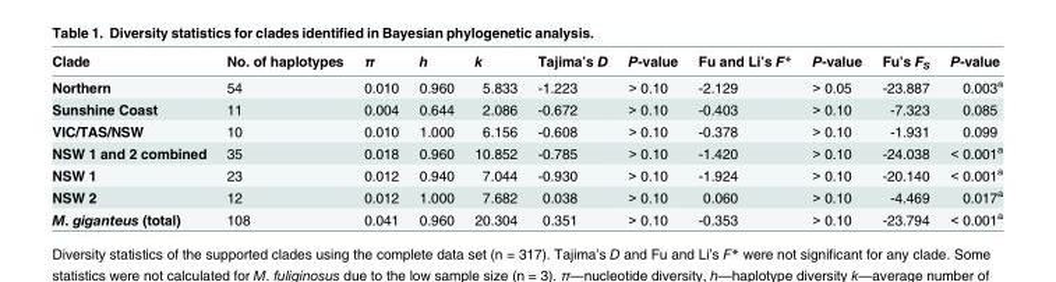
<table><thead><tr><td>Clade</td><td>No. of haplotypes</td><td>π</td><td>h</td><td>k</td><td>Tajima’s D</td><td>P-value</td><td>Fu and Li’s F*</td><td>P-value</td><td>Fu’s F<sub>S</sub></td><td>P-value</td></tr></thead><tbody><tr><td>Northern</td><td>54</td><td>0.010</td><td>0.960</td><td>5.833</td><td>-1.223</td><td>&gt; 0.10</td><td>-2.129</td><td>&gt; 0.05</td><td>-23.887</td><td>0.003<sup>a</sup></td></tr><tr><td>Sunshine Coast</td><td>11</td><td>0.004</td><td>0.644</td><td>2.086</td><td>-0.672</td><td>&gt; 0.10</td><td>-0.403</td><td>&gt; 0.10</td><td>-7.323</td><td>0.085</td></tr><tr><td>VIC/TAS/NSW</td><td>10</td><td>0.010</td><td>1.000</td><td>6.156</td><td>-0.608</td><td>&gt; 0.10</td><td>-0.378</td><td>&gt; 0.10</td><td>-1.931</td><td>0.099</td></tr><tr><td>NSW 1 and 2 combined</td><td>35</td><td>0.018</td><td>0.960</td><td>10.852</td><td>-0.785</td><td>&gt; 0.10</td><td>-1.420</td><td>&gt; 0.10</td><td>-24.038</td><td>&lt; 0.001<sup>a</sup></td></tr><tr><td>NSW 1</td><td>23</td><td>0.012</td><td>0.940</td><td>7.044</td><td>-0.930</td><td>&gt; 0.10</td><td>-1.924</td><td>&gt; 0.10</td><td>-20.140</td><td>&lt; 0.001<sup>a</sup></td></tr><tr><td>NSW 2</td><td>12</td><td>0.012</td><td>1.000</td><td>7.682</td><td>0.038</td><td>&gt; 0.10</td><td>0.060</td><td>&gt; 0.10</td><td>-4.469</td><td>0.017<sup>a</sup></td></tr><tr><td>M. giganteus (total)</td><td>108</td><td>0.041</td><td>0.960</td><td>20.304</td><td>0.351</td><td>&gt; 0.10</td><td>-0.353</td><td>&gt; 0.10</td><td>-23.794</td><td>&lt; 0.001<sup>a</sup></td></tr></tbody></table>